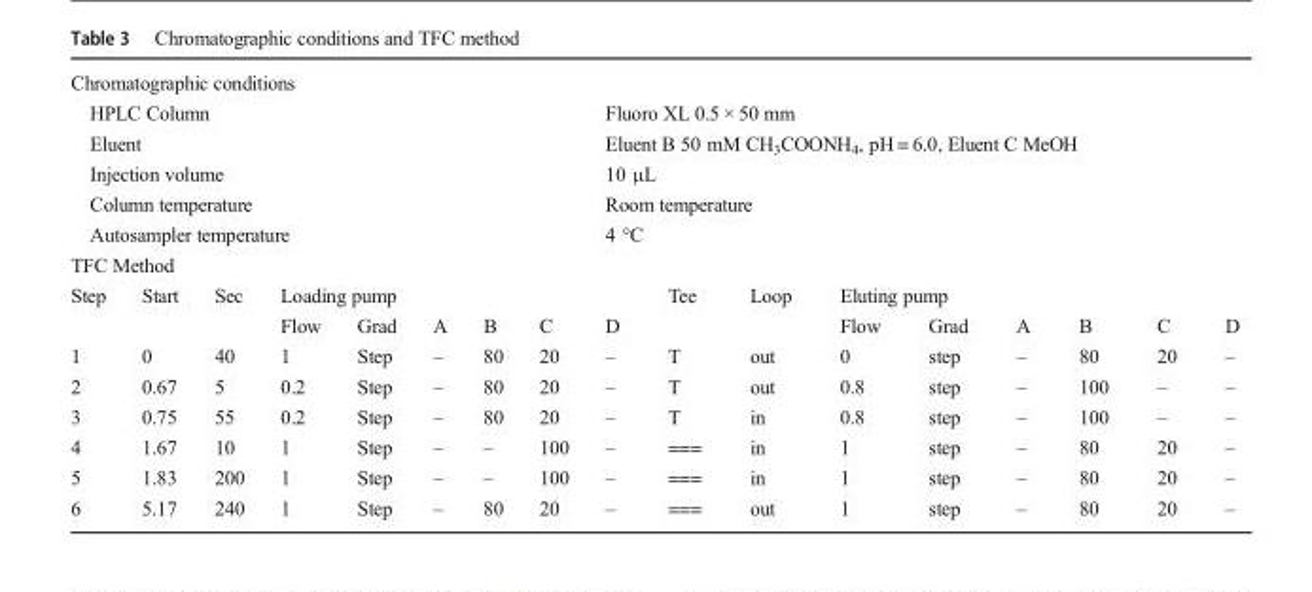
<table><tbody><tr><td colspan="17">Chromatographic conditions</td></tr><tr><td colspan="8">HPLC Column</td><td colspan="9">Fluoro XL 0.5 × 50 mm</td></tr><tr><td colspan="8">Eluent</td><td colspan="9">Eluent B 50 mM CH<sub>3</sub>COONH<sub>4</sub>, pH = 6.0, Eluent C MeOH</td></tr><tr><td colspan="8">Injection volume</td><td colspan="9">10 μL</td></tr><tr><td colspan="8">Column temperature</td><td colspan="9">Room temperature</td></tr><tr><td colspan="8">Autosampler temperature</td><td colspan="9">4 °C</td></tr><tr><td colspan="17">TFC Method</td></tr><tr><td rowspan="2">Step</td><td>Start</td><td>Sec</td><td colspan="6">Loading pump</td><td>Tee</td><td>Loop</td><td colspan="6">Eluting pump</td></tr><tr><td></td><td></td><td>Flow</td><td>Grad</td><td>A</td><td>B</td><td>C</td><td>D</td><td></td><td></td><td>Flow</td><td>Grad</td><td>A</td><td>B</td><td>C</td><td>D</td></tr><tr><td>1</td><td>0</td><td>40</td><td>1</td><td>Step</td><td>–</td><td>80</td><td>20</td><td>–</td><td>T</td><td>out</td><td>0</td><td>step</td><td>–</td><td>80</td><td>20</td><td>–</td></tr><tr><td>2</td><td>0.67</td><td>5</td><td>0.2</td><td>Step</td><td>–</td><td>80</td><td>20</td><td>–</td><td>T</td><td>out</td><td>0.8</td><td>step</td><td>–</td><td>100</td><td>–</td><td>–</td></tr><tr><td>3</td><td>0.75</td><td>55</td><td>0.2</td><td>Step</td><td>–</td><td>80</td><td>20</td><td>–</td><td>T</td><td>in</td><td>0.8</td><td>step</td><td>–</td><td>100</td><td>–</td><td>–</td></tr><tr><td>4</td><td>1.67</td><td>10</td><td>1</td><td>Step</td><td>–</td><td>–</td><td>100</td><td>–</td><td>===</td><td>in</td><td>1</td><td>step</td><td>–</td><td>80</td><td>20</td><td>–</td></tr><tr><td>5</td><td>1.83</td><td>200</td><td>1</td><td>Step</td><td>–</td><td>–</td><td>100</td><td>–</td><td>===</td><td>in</td><td>1</td><td>step</td><td>–</td><td>80</td><td>20</td><td>–</td></tr><tr><td>6</td><td>5.17</td><td>240</td><td>1</td><td>Step</td><td>–</td><td>80</td><td>20</td><td>–</td><td>===</td><td>out</td><td>1</td><td>step</td><td>–</td><td>80</td><td>20</td><td>–</td></tr></tbody></table>